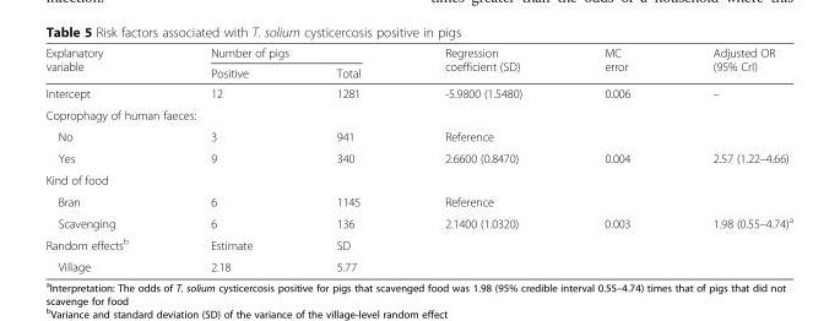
<table><thead><tr><td rowspan="2">Explanatory variable</td><td colspan="2">Number of pigs</td><td rowspan="2">Regression coefficient (SD)</td><td rowspan="2">MC error</td><td rowspan="2">Adjusted OR (95% CrI)</td></tr><tr><td>Positive</td><td>Total</td></tr></thead><tbody><tr><td>Intercept</td><td>12</td><td>1281</td><td>-5.9800 (1.5480)</td><td>0.006</td><td>–</td></tr><tr><td colspan="6">Coprophagy of human faeces:</td></tr><tr><td>No</td><td>3</td><td>941</td><td>Reference</td><td></td><td></td></tr><tr><td>Yes</td><td>9</td><td>340</td><td>2.6600 (0.8470)</td><td>0.004</td><td>2.57 (1.22–4.66)</td></tr><tr><td colspan="6">Kind of food</td></tr><tr><td>Bran</td><td>6</td><td>1145</td><td>Reference</td><td></td><td></td></tr><tr><td>Scavenging</td><td>6</td><td>136</td><td>2.1400 (1.0320)</td><td>0.003</td><td>1.98 (0.55–4.74)<sup>a</sup></td></tr><tr><td>Random effects<sup>b</sup></td><td>Estimate</td><td>SD</td><td></td><td></td><td></td></tr><tr><td>Village</td><td>2.18</td><td>5.77</td><td></td><td></td><td></td></tr></tbody></table>